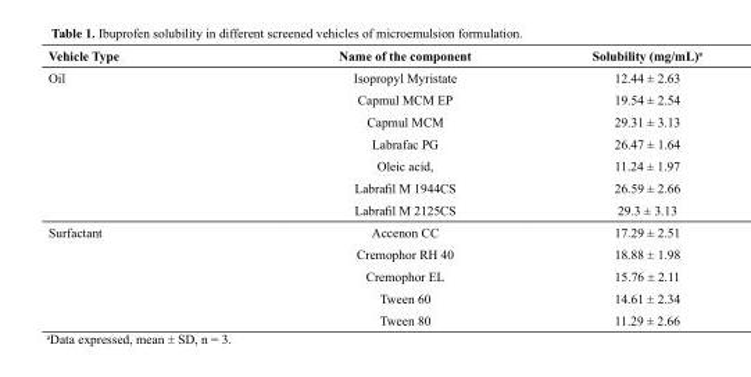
<table><thead><tr><td>Vehicle Type</td><td>Name of the component</td><td>Solubility (mg/mL)<sup>a</sup></td></tr></thead><tbody><tr><td rowspan="7">Oil</td><td>Isopropyl Myristate</td><td>12.44 ± 2.63</td></tr><tr><td>Capmul MCM EP</td><td>19.54 ± 2.54</td></tr><tr><td>Capmul MCM</td><td>29.31 ± 3.13</td></tr><tr><td>Labrafac PG</td><td>26.47 ± 1.64</td></tr><tr><td>Oleic acid,</td><td>11.24 ± 1.97</td></tr><tr><td>Labrafil M 1944CS</td><td>26.59 ± 2.66</td></tr><tr><td>Labrafil M 2125CS</td><td>29.3 ± 3.13</td></tr><tr><td rowspan="5">Surfactant</td><td>Accenon CC</td><td>17.29 ± 2.51</td></tr><tr><td>Cremophor RH 40</td><td>18.88 ± 1.98</td></tr><tr><td>Cremophor EL</td><td>15.76 ± 2.11</td></tr><tr><td>Tween 60</td><td>14.61 ± 2.34</td></tr><tr><td>Tween 80</td><td>11.29 ± 2.66</td></tr></tbody></table>